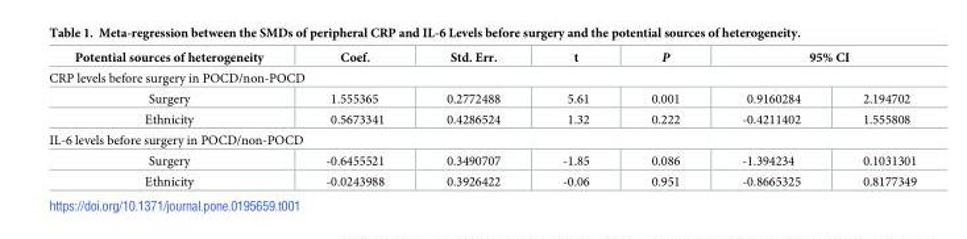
<table><thead><tr><td>Potential sources of heterogeneity</td><td>Coef.</td><td>Std. Err.</td><td>t</td><td>P</td><td colspan="2">95% CI</td></tr><tr><td colspan="7">CRP levels before surgery in POCD/non-POCD</td></tr><tr><td>Surgery</td><td>1.555365</td><td>0.2772488</td><td>5.61</td><td>0.001</td><td>0.9160284</td><td>2.194702</td></tr></thead><tbody><tr><td>Ethnicity</td><td>0.5673341</td><td>0.4286524</td><td>1.32</td><td>0.222</td><td>-0.4211402</td><td>1.555808</td></tr><tr><td colspan="7">IL-6 levels before surgery in POCD/non-POCD</td></tr><tr><td>Surgery</td><td>-0.6455521</td><td>0.3490707</td><td>-1.85</td><td>0.086</td><td>-1.394234</td><td>0.1031301</td></tr><tr><td>Ethnicity</td><td>-0.0243988</td><td>0.3926422</td><td>-0.06</td><td>0.951</td><td>-0.8665325</td><td>0.8177349</td></tr></tbody></table>